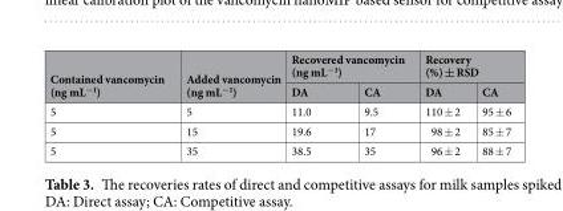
<table><thead><tr><td rowspan="2">Contained vancomycin (ng mL<sup>−1</sup>)</td><td rowspan="2">Added vancomycin (ng mL<sup>−1</sup>)</td><td colspan="2">Recovered vancomycin (ng mL<sup>−1</sup>)</td><td colspan="2">Recovery (%) ± RSD</td></tr><tr><td>DA</td><td>CA</td><td>DA</td><td>CA</td></tr></thead><tbody><tr><td>5</td><td>5</td><td>11.0</td><td>9.5</td><td>110 ± 2</td><td>95 ± 6</td></tr><tr><td>5</td><td>15</td><td>19.6</td><td>17</td><td>98 ± 2</td><td>85 ± 7</td></tr><tr><td>5</td><td>35</td><td>38.5</td><td>35</td><td>96 ± 2</td><td>88 ± 7</td></tr></tbody></table>